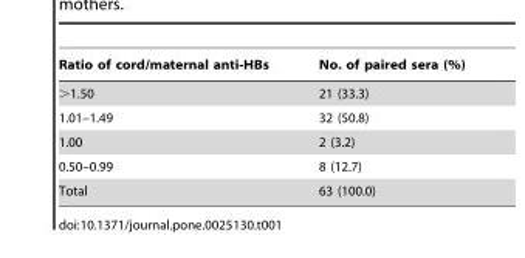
<table><thead><tr><td>Ratio of cord/maternal anti-HBs</td><td>No. of paired sera (%)</td></tr></thead><tbody><tr><td>&gt;1.50</td><td>21 (33.3)</td></tr><tr><td>1.01–1.49</td><td>32 (50.8)</td></tr><tr><td>1.00</td><td>2 (3.2)</td></tr><tr><td>0.50–0.99</td><td>8 (12.7)</td></tr><tr><td>Total</td><td>63 (100.0)</td></tr></tbody></table>